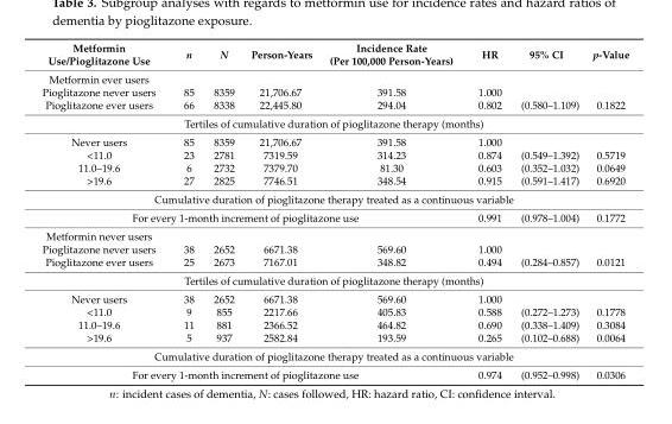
<table><thead><tr><td>Metformin Use/Pioglitazone Use</td><td>n</td><td>N</td><td>Person-Years</td><td>Incidence Rate (Per 100,000 Person-Years)</td><td>HR</td><td>95% CI</td><td>p-Value</td></tr></thead><tbody><tr><td colspan="8">Metformin ever users</td></tr><tr><td>Pioglitazone never users</td><td>85</td><td>8359</td><td>21,706.67</td><td>391.58</td><td>1.000</td><td></td><td></td></tr><tr><td>Pioglitazone ever users</td><td>66</td><td>8338</td><td>22,445.80</td><td>294.04</td><td>0.802</td><td>(0.580–1.109)</td><td>0.1822</td></tr><tr><td colspan="8">Tertiles of cumulative duration of pioglitazone therapy (months)</td></tr><tr><td>Never users</td><td>85</td><td>8359</td><td>21,706.67</td><td>391.58</td><td>1.000</td><td></td><td></td></tr><tr><td>&lt;11.0</td><td>23</td><td>2781</td><td>7319.59</td><td>314.23</td><td>0.874</td><td>(0.549–1.392)</td><td>0.5719</td></tr><tr><td>11.0–19.6</td><td>6</td><td>2732</td><td>7379.70</td><td>81.30</td><td>0.603</td><td>(0.352–1.032)</td><td>0.0649</td></tr><tr><td>&gt;19.6</td><td>27</td><td>2825</td><td>7746.51</td><td>348.54</td><td>0.915</td><td>(0.591–1.417)</td><td>0.6920</td></tr><tr><td colspan="8">Cumulative duration of pioglitazone therapy treated as a continuous variable</td></tr><tr><td colspan="5">For every 1-month increment of pioglitazone use</td><td>0.991</td><td>(0.978–1.004)</td><td>0.1772</td></tr><tr><td colspan="8">Metformin never users</td></tr><tr><td>Pioglitazone never users</td><td>38</td><td>2652</td><td>6671.38</td><td>569.60</td><td>1.000</td><td></td><td></td></tr><tr><td>Pioglitazone ever users</td><td>25</td><td>2673</td><td>7167.01</td><td>348.82</td><td>0.494</td><td>(0.284–0.857)</td><td>0.0121</td></tr><tr><td colspan="8">Tertiles of cumulative duration of pioglitazone therapy (months)</td></tr><tr><td>Never users</td><td>38</td><td>2652</td><td>6671.38</td><td>569.60</td><td>1.000</td><td></td><td></td></tr><tr><td>&lt;11.0</td><td>9</td><td>855</td><td>2217.66</td><td>405.83</td><td>0.588</td><td>(0.272–1.273)</td><td>0.1778</td></tr><tr><td>11.0–19.6</td><td>11</td><td>881</td><td>2366.52</td><td>464.82</td><td>0.690</td><td>(0.338–1.409)</td><td>0.3084</td></tr><tr><td>&gt;19.6</td><td>5</td><td>937</td><td>2582.84</td><td>193.59</td><td>0.265</td><td>(0.102–0.688)</td><td>0.0064</td></tr><tr><td colspan="8">Cumulative duration of pioglitazone therapy treated as a continuous variable</td></tr><tr><td colspan="5">For every 1-month increment of pioglitazone use</td><td>0.974</td><td>(0.952–0.998)</td><td>0.0306</td></tr></tbody></table>